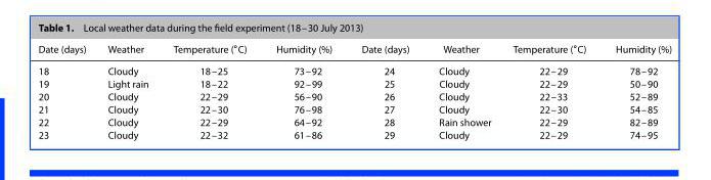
<table><thead><tr><td>Date (days)</td><td>Weather</td><td>Temperature (∘C)</td><td>Humidity (%)</td><td>Date (days)</td><td>Weather</td><td>Temperature (∘C)</td><td>Humidity (%)</td></tr></thead><tbody><tr><td>18</td><td>Cloudy</td><td>18–25</td><td>73–92</td><td>24</td><td>Cloudy</td><td>22–29</td><td>78–92</td></tr><tr><td>19</td><td>Light rain</td><td>18–22</td><td>92–99</td><td>25</td><td>Cloudy</td><td>22–29</td><td>50–90</td></tr><tr><td>20</td><td>Cloudy</td><td>22–29</td><td>56–90</td><td>26</td><td>Cloudy</td><td>22–33</td><td>52–89</td></tr><tr><td>21</td><td>Cloudy</td><td>22–30</td><td>76–98</td><td>27</td><td>Cloudy</td><td>22–30</td><td>54–85</td></tr><tr><td>22</td><td>Cloudy</td><td>22–29</td><td>64–92</td><td>28</td><td>Rain shower</td><td>22–29</td><td>82–89</td></tr><tr><td>23</td><td>Cloudy</td><td>22–32</td><td>61–86</td><td>29</td><td>Cloudy</td><td>22–29</td><td>74–95</td></tr></tbody></table>